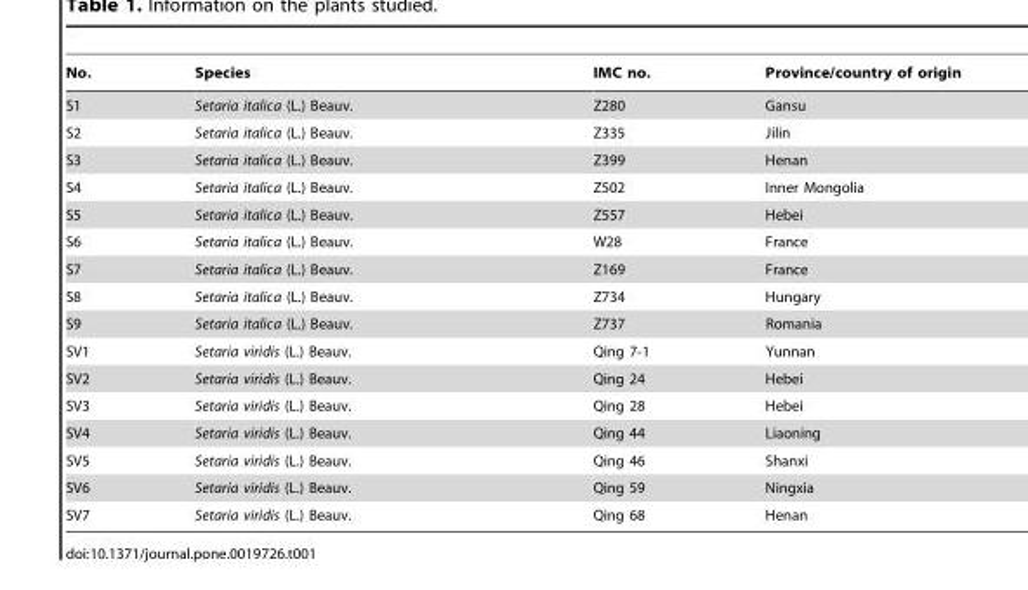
<table><thead><tr><td>No.</td><td>Species</td><td>IMC no.</td><td>Province/country of origin</td></tr></thead><tbody><tr><td>S1</td><td>Setaria italica (L.) Beauv.</td><td>Z280</td><td>Gansu</td></tr><tr><td>S2</td><td>Setaria italica (L.) Beauv.</td><td>Z335</td><td>Jilin</td></tr><tr><td>S3</td><td>Setaria italica (L.) Beauv.</td><td>Z399</td><td>Henan</td></tr><tr><td>S4</td><td>Setaria italica (L.) Beauv.</td><td>Z502</td><td>Inner Mongolia</td></tr><tr><td>S5</td><td>Setaria italica (L.) Beauv.</td><td>Z557</td><td>Hebei</td></tr><tr><td>S6</td><td>Setaria italica (L.) Beauv.</td><td>W28</td><td>France</td></tr><tr><td>S7</td><td>Setaria italica (L.) Beauv.</td><td>Z169</td><td>France</td></tr><tr><td>S8</td><td>Setaria italica (L.) Beauv.</td><td>Z734</td><td>Hungary</td></tr><tr><td>S9</td><td>Setaria italica (L.) Beauv.</td><td>Z737</td><td>Romania</td></tr><tr><td>SV1</td><td>Setaria viridis (L.) Beauv.</td><td>Qing 7-1</td><td>Yunnan</td></tr><tr><td>SV2</td><td>Setaria viridis (L.) Beauv.</td><td>Qing 24</td><td>Hebei</td></tr><tr><td>SV3</td><td>Setaria viridis (L.) Beauv.</td><td>Qing 28</td><td>Hebei</td></tr><tr><td>SV4</td><td>Setaria viridis (L.) Beauv.</td><td>Qing 44</td><td>Liaoning</td></tr><tr><td>SV5</td><td>Setaria viridis (L.) Beauv.</td><td>Qing 46</td><td>Shanxi</td></tr><tr><td>SV6</td><td>Setaria viridis (L.) Beauv.</td><td>Qing 59</td><td>Ningxia</td></tr><tr><td>SV7</td><td>Setaria viridis (L.) Beauv.</td><td>Qing 68</td><td>Henan</td></tr></tbody></table>